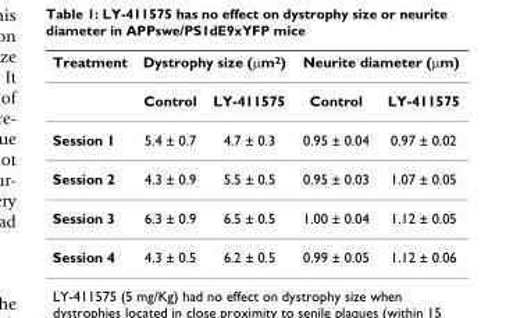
<table><thead><tr><td rowspan="2">Treatment</td><td colspan="2">Dystrophy size (μm<sup>2</sup>)</td><td colspan="2">Neurite diameter (μm)</td></tr><tr><td>Control</td><td>LY-411575</td><td>Control</td><td>LY-411575</td></tr></thead><tbody><tr><td>Session 1</td><td>5.4 ± 0.7</td><td>4.7 ± 0.3</td><td>0.95 ± 0.04</td><td>0.97 ± 0.02</td></tr><tr><td>Session 2</td><td>4.3 ± 0.9</td><td>5.5 ± 0.5</td><td>0.95 ± 0.03</td><td>1.07 ± 0.05</td></tr><tr><td>Session 3</td><td>6.3 ± 0.9</td><td>6.5 ± 0.5</td><td>1.00 ± 0.04</td><td>1.12 ± 0.05</td></tr><tr><td>Session 4</td><td>4.3 ± 0.5</td><td>6.2 ± 0.5</td><td>0.99 ± 0.05</td><td>1.12 ± 0.06</td></tr></tbody></table>